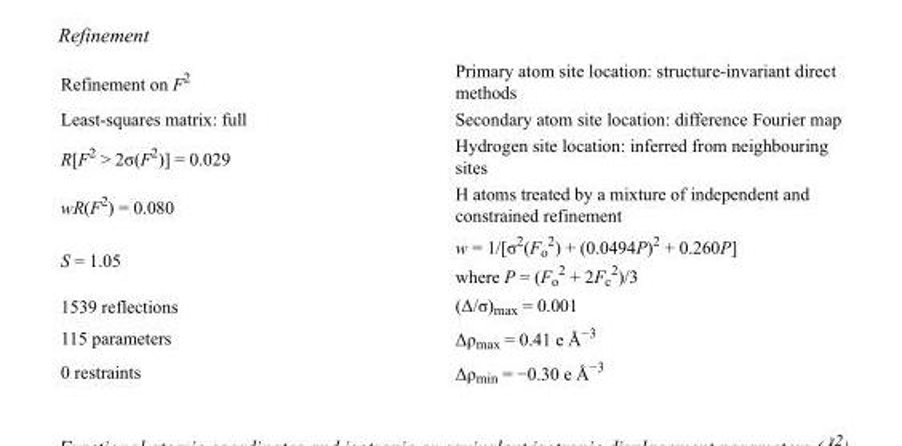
<table><tbody><tr><td>Refinement on F<sup>2</sup></td><td>Primary atom site location: structure-invariant direct methods</td></tr><tr><td>Least-squares matrix: full</td><td>Secondary atom site location: difference Fourier map</td></tr><tr><td>R[F<sup>2</sup> &gt; 2σ(F<sup>2</sup>)] = 0.029</td><td>Hydrogen site location: inferred from neighbouring sites</td></tr><tr><td>wR(F<sup>2</sup>) = 0.080</td><td>H atoms treated by a mixture of independent and constrained refinement</td></tr><tr><td>S = 1.05</td><td>w = 1/[σ<sup>2</sup>(F<sub>o</sub> <sup>2</sup>) + (0.0494P)<sup>2</sup> + 0.260P] where P = (F<sub>o</sub> <sup>2</sup> + 2F<sub>c</sub> <sup>2</sup>)/3</td></tr><tr><td>1539 reflections</td><td>(Δ/σ)<sub>max</sub> = 0.001</td></tr><tr><td>115 parameters</td><td>Δρ<sub>max</sub> = 0.41 e Å<sup>−3</sup></td></tr><tr><td>0 restraints</td><td>Δρ<sub>min</sub> = −0.30 e Å<sup>−3</sup></td></tr></tbody></table>